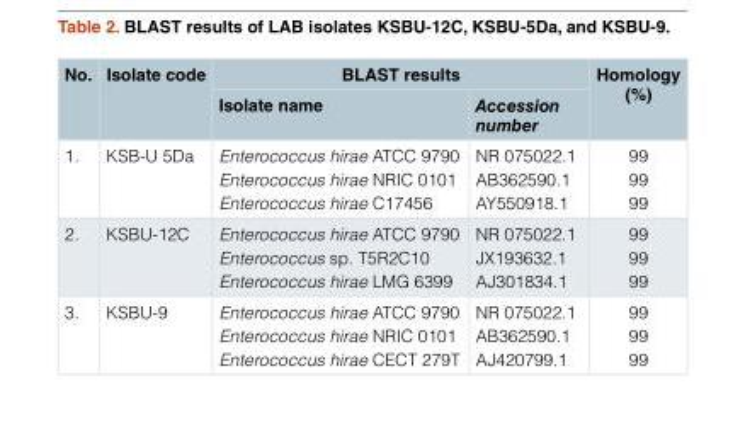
<table><thead><tr><td rowspan="2">No.</td><td rowspan="2">Isolate code</td><td colspan="2">BLAST results</td><td rowspan="2">Homology (%)</td></tr><tr><td>Isolate name</td><td>Accession number</td></tr></thead><tbody><tr><td>1.</td><td>KSB-U 5Da</td><td>Enterococcus hirae ATCC 9790 Enterococcus hirae NRIC 0101 Enterococcus hirae C17456</td><td>NR 075022.1 AB362590.1 AY550918.1</td><td>99 99 99</td></tr><tr><td>2.</td><td>KSBU-12C</td><td>Enterococcus hirae ATCC 9790 Enterococcus sp. T5R2C10 Enterococcus hirae LMG 6399</td><td>NR 075022.1 JX193632.1 AJ301834.1</td><td>99 99 99</td></tr><tr><td>3.</td><td>KSBU-9</td><td>Enterococcus hirae ATCC 9790 Enterococcus hirae NRIC 0101 Enterococcus hirae CECT 279T</td><td>NR 075022.1 AB362590.1 AJ420799.1</td><td>99 99 99</td></tr></tbody></table>